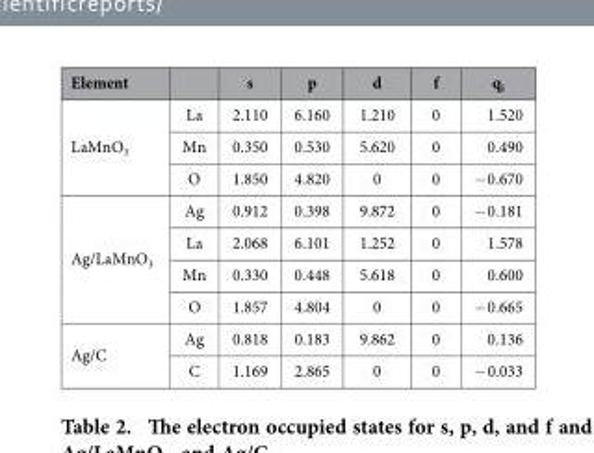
<table><thead><tr><td>Element</td><td></td><td>s</td><td>p</td><td>d</td><td>f</td><td>q<sub>i</sub></td></tr></thead><tbody><tr><td rowspan="3">LaMnO<sub>3</sub></td><td>La</td><td>2.110</td><td>6.160</td><td>1.210</td><td>0</td><td>1.520</td></tr><tr><td>Mn</td><td>0.350</td><td>0.530</td><td>5.620</td><td>0</td><td>0.490</td></tr><tr><td>O</td><td>1.850</td><td>4.820</td><td>0</td><td>0</td><td>− 0.670</td></tr><tr><td rowspan="4">Ag/LaMnO<sub>3</sub></td><td>Ag</td><td>0.912</td><td>0.398</td><td>9.872</td><td>0</td><td>− 0.181</td></tr><tr><td>La</td><td>2.068</td><td>6.101</td><td>1.252</td><td>0</td><td>1.578</td></tr><tr><td>Mn</td><td>0.330</td><td>0.448</td><td>5.618</td><td>0</td><td>0.600</td></tr><tr><td>O</td><td>1.857</td><td>4.804</td><td>0</td><td>0</td><td>− 0.665</td></tr><tr><td rowspan="2">Ag/C</td><td>Ag</td><td>0.818</td><td>0.183</td><td>9.862</td><td>0</td><td>0.136</td></tr><tr><td>C</td><td>1.169</td><td>2.865</td><td>0</td><td>0</td><td>− 0.033</td></tr></tbody></table>